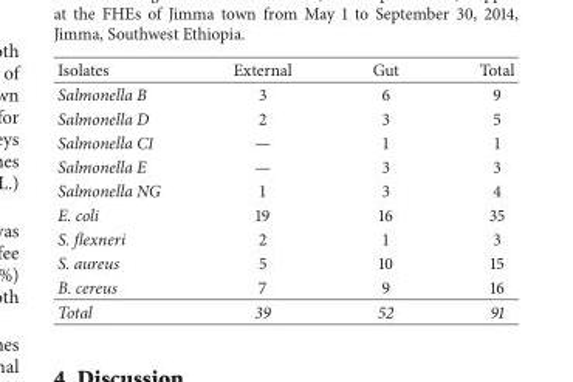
<table><thead><tr><td>Isolates</td><td>External</td><td>Gut</td><td>Total</td></tr></thead><tbody><tr><td>Salmonella B</td><td>3</td><td>6</td><td>9</td></tr><tr><td>Salmonella D</td><td>2</td><td>3</td><td>5</td></tr><tr><td>Salmonella C1</td><td>—</td><td>1</td><td>1</td></tr><tr><td>Salmonella E</td><td>—</td><td>3</td><td>3</td></tr><tr><td>Salmonella NG</td><td>1</td><td>3</td><td>4</td></tr><tr><td>E. coli</td><td>19</td><td>16</td><td>35</td></tr><tr><td>S. flexneri</td><td>2</td><td>1</td><td>3</td></tr><tr><td>S. aureus</td><td>5</td><td>10</td><td>15</td></tr><tr><td>B. cereus</td><td>7</td><td>9</td><td>16</td></tr><tr><td>Total</td><td>39</td><td>52</td><td>91</td></tr></tbody></table>